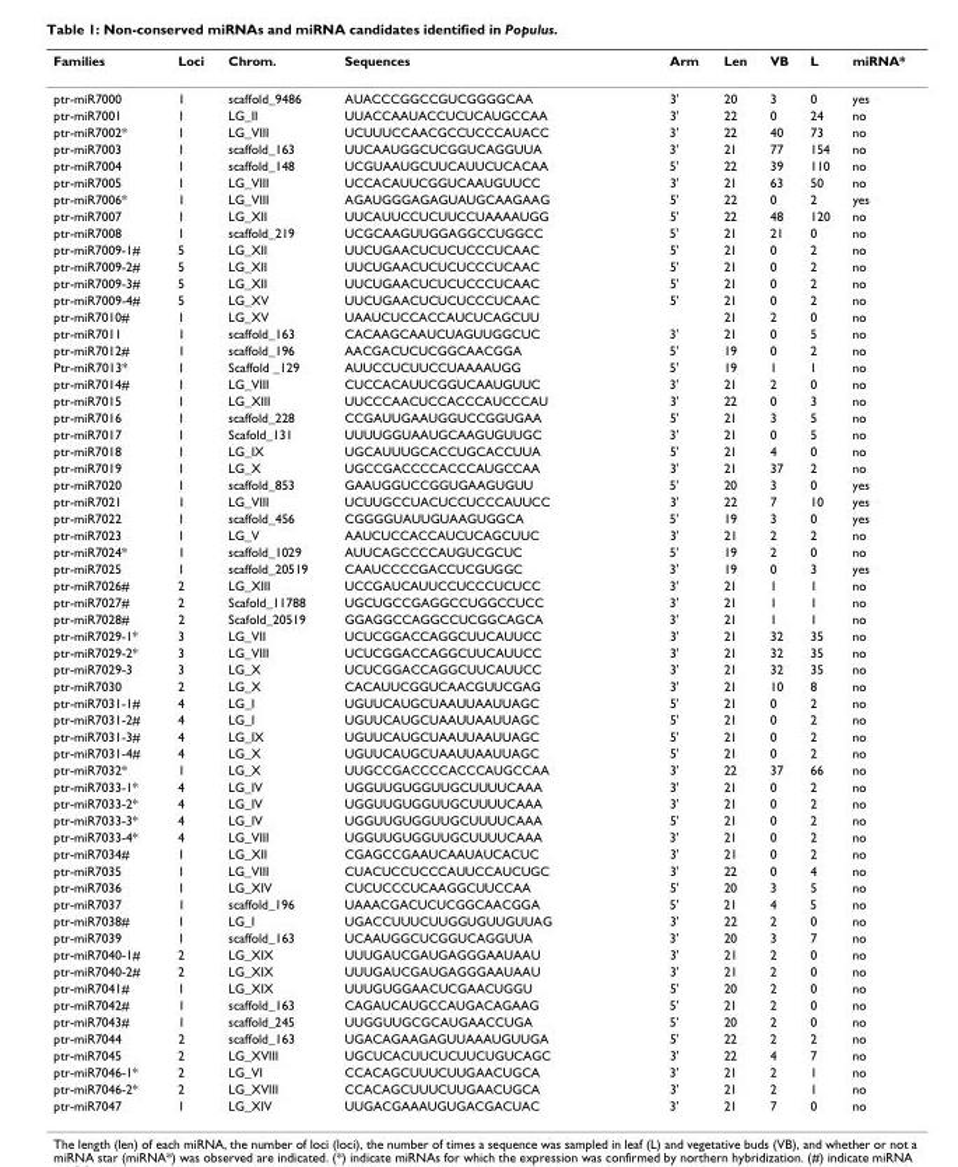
<table><thead><tr><td>Families</td><td>Loci</td><td>Chrom.</td><td>Sequences</td><td>Arm</td><td>Len</td><td>VB</td><td>L</td><td>miRNA*</td></tr></thead><tbody><tr><td>ptr-miR7000</td><td>1</td><td>scaffold_9486</td><td>AUACCCGGCCGUCGGGGCAA</td><td>3&#x27;</td><td>20</td><td>3</td><td>0</td><td>yes</td></tr><tr><td>ptr-miR7001</td><td>1</td><td>LG_II</td><td>UUACCAAUACCUCUCAUGCCAA</td><td>3&#x27;</td><td>22</td><td>0</td><td>24</td><td>no</td></tr><tr><td>ptr-miR7002*</td><td>1</td><td>LG_VIII</td><td>UCUUUCCAACGCCUCCCAUACC</td><td>3&#x27;</td><td>22</td><td>40</td><td>73</td><td>no</td></tr><tr><td>ptr-miR7003</td><td>1</td><td>scaffold_163</td><td>UUCAAUGGCUCGGUCAGGUUA</td><td>3&#x27;</td><td>21</td><td>77</td><td>154</td><td>no</td></tr><tr><td>ptr-miR7004</td><td>1</td><td>scaffold_148</td><td>UCGUAAUGCUUCAUUCUCACAA</td><td>5&#x27;</td><td>22</td><td>39</td><td>110</td><td>no</td></tr><tr><td>ptr-miR7005</td><td>1</td><td>LG_VIII</td><td>UCCACAUUCGGUCAAUGUUCC</td><td>3&#x27;</td><td>21</td><td>63</td><td>50</td><td>no</td></tr><tr><td>ptr-miR7006*</td><td>1</td><td>LG_VIII</td><td>AGAUGGGAGAGUAUGCAAGAAG</td><td>5&#x27;</td><td>22</td><td>0</td><td>2</td><td>yes</td></tr><tr><td>ptr-miR7007</td><td>1</td><td>LG_XII</td><td>UUCAUUCCUCUUCCUAAAAUGG</td><td>5&#x27;</td><td>22</td><td>48</td><td>120</td><td>no</td></tr><tr><td>ptr-miR7008</td><td>1</td><td>scaffold_219</td><td>UCGCAAGUUGGAGGCCUGGCC</td><td>5&#x27;</td><td>21</td><td>21</td><td>0</td><td>no</td></tr><tr><td>ptr-miR7009-1#</td><td>5</td><td>LG_XII</td><td>UUCUGAACUCUCUCCCUCAAC</td><td>5&#x27;</td><td>21</td><td>0</td><td>2</td><td>no</td></tr><tr><td>ptr-miR7009-2#</td><td>5</td><td>LG_XII</td><td>UUCUGAACUCUCUCCCUCAAC</td><td>5&#x27;</td><td>21</td><td>0</td><td>2</td><td>no</td></tr><tr><td>ptr-miR7009-3#</td><td>5</td><td>LG_XII</td><td>UUCUGAACUCUCUCCCUCAAC</td><td>5&#x27;</td><td>21</td><td>0</td><td>2</td><td>no</td></tr><tr><td>ptr-miR7009-4#</td><td>5</td><td>LG_XV</td><td>UUCUGAACUCUCUCCCUCAAC</td><td>5&#x27;</td><td>21</td><td>0</td><td>2</td><td>no</td></tr><tr><td>ptr-miR7010#</td><td>1</td><td>LG_XV</td><td>UAAUCUCCACCAUCUCAGCUU</td><td></td><td>21</td><td>2</td><td>0</td><td>no</td></tr><tr><td>ptr-miR7011</td><td>1</td><td>scaffold_163</td><td>CACAAGCAAUCUAGUUGGCUC</td><td>3&#x27;</td><td>21</td><td>0</td><td>5</td><td>no</td></tr><tr><td>ptr-miR7012#</td><td>1</td><td>scaffold_196</td><td>AACGACUCUCGGCAACGGA</td><td>5&#x27;</td><td>19</td><td>0</td><td>2</td><td>no</td></tr><tr><td>Ptr-miR7013*</td><td>1</td><td>Scaffold _129</td><td>AUUCCUCUUCCUAAAAUGG</td><td>5&#x27;</td><td>19</td><td>1</td><td>1</td><td>no</td></tr><tr><td>ptr-miR7014#</td><td>1</td><td>LG_VIII</td><td>CUCCACAUUCGGUCAAUGUUC</td><td>3&#x27;</td><td>21</td><td>2</td><td>0</td><td>no</td></tr><tr><td>ptr-miR7015</td><td>1</td><td>LG_XIII</td><td>UUCCCAACUCCACCCAUCCCAU</td><td>3&#x27;</td><td>22</td><td>0</td><td>3</td><td>no</td></tr><tr><td>ptr-miR7016</td><td>1</td><td>scaffold_228</td><td>CCGAUUGAAUGGUCCGGUGAA</td><td>5&#x27;</td><td>21</td><td>3</td><td>5</td><td>no</td></tr><tr><td>ptr-miR7017</td><td>1</td><td>Scafold_131</td><td>UUUUGGUAAUGCAAGUGUUGC</td><td>3&#x27;</td><td>21</td><td>0</td><td>5</td><td>no</td></tr><tr><td>ptr-miR7018</td><td>1</td><td>LG_IX</td><td>UGCAUUUGCACCUGCACCUUA</td><td>5&#x27;</td><td>21</td><td>4</td><td>0</td><td>no</td></tr><tr><td>ptr-miR7019</td><td>1</td><td>LG_X</td><td>UGCCGACCCCACCCAUGCCAA</td><td>3&#x27;</td><td>21</td><td>37</td><td>2</td><td>no</td></tr><tr><td>ptr-miR7020</td><td>1</td><td>scaffold_853</td><td>GAAUGGUCCGGUGAAGUGUU</td><td>5&#x27;</td><td>20</td><td>3</td><td>0</td><td>yes</td></tr><tr><td>ptr-miR7021</td><td>1</td><td>LG_VIII</td><td>UCUUGCCUACUCCUCCCAUUCC</td><td>3&#x27;</td><td>22</td><td>7</td><td>10</td><td>yes</td></tr><tr><td>ptr-miR7022</td><td>1</td><td>scaffold_456</td><td>CGGGGUAUUGUAAGUGGCA</td><td>5&#x27;</td><td>19</td><td>3</td><td>0</td><td>yes</td></tr><tr><td>ptr-miR7023</td><td>1</td><td>LG_V</td><td>AAUCUCCACCAUCUCAGCUUC</td><td>3&#x27;</td><td>21</td><td>2</td><td>2</td><td>no</td></tr><tr><td>ptr-miR7024*</td><td>1</td><td>scaffold_1029</td><td>AUUCAGCCCCAUGUCGCUC</td><td>5&#x27;</td><td>19</td><td>2</td><td>0</td><td>no</td></tr><tr><td>ptr-miR7025</td><td>1</td><td>scaffold_20519</td><td>CAAUCCCCGACCUCGUGGC</td><td>3&#x27;</td><td>19</td><td>0</td><td>3</td><td>yes</td></tr><tr><td>ptr-miR7026#</td><td>2</td><td>LG_XIII</td><td>UCCGAUCAUUCCUCCCUCUCC</td><td>3&#x27;</td><td>21</td><td>1</td><td>1</td><td>no</td></tr><tr><td>ptr-miR7027#</td><td>2</td><td>Scafold_11788</td><td>UGCUGCCGAGGCCUGGCCUCC</td><td>3&#x27;</td><td>21</td><td>1</td><td>1</td><td>no</td></tr><tr><td>ptr-miR7028#</td><td>2</td><td>Scafold_20519</td><td>GGAGGCCAGGCCUCGGCAGCA</td><td>3&#x27;</td><td>21</td><td>1</td><td>1</td><td>no</td></tr><tr><td>ptr-miR7029-1*</td><td>3</td><td>LG_VII</td><td>UCUCGGACCAGGCUUCAUUCC</td><td>3&#x27;</td><td>21</td><td>32</td><td>35</td><td>no</td></tr><tr><td>ptr-miR7029-2*</td><td>3</td><td>LG_VIII</td><td>UCUCGGACCAGGCUUCAUUCC</td><td>3&#x27;</td><td>21</td><td>32</td><td>35</td><td>no</td></tr><tr><td>ptr-miR7029-3</td><td>3</td><td>LG_X</td><td>UCUCGGACCAGGCUUCAUUCC</td><td>3&#x27;</td><td>21</td><td>32</td><td>35</td><td>no</td></tr><tr><td>ptr-miR7030</td><td>2</td><td>LG_X</td><td>CACAUUCGGUCAACGUUCGAG</td><td>3&#x27;</td><td>21</td><td>10</td><td>8</td><td>no</td></tr><tr><td>ptr-miR7031-1#</td><td>4</td><td>LG_I</td><td>UGUUCAUGCUAAUUAAUUAGC</td><td>5&#x27;</td><td>21</td><td>0</td><td>2</td><td>no</td></tr><tr><td>ptr-miR7031-2#</td><td>4</td><td>LG_I</td><td>UGUUCAUGCUAAUUAAUUAGC</td><td>5&#x27;</td><td>21</td><td>0</td><td>2</td><td>no</td></tr><tr><td>ptr-miR7031-3#</td><td>4</td><td>LG_IX</td><td>UGUUCAUGCUAAUUAAUUAGC</td><td>5&#x27;</td><td>21</td><td>0</td><td>2</td><td>no</td></tr><tr><td>ptr-miR7031-4#</td><td>4</td><td>LG_X</td><td>UGUUCAUGCUAAUUAAUUAGC</td><td>5&#x27;</td><td>21</td><td>0</td><td>2</td><td>no</td></tr><tr><td>ptr-miR7032*</td><td>1</td><td>LG_X</td><td>UUGCCGACCCCACCCAUGCCAA</td><td>3&#x27;</td><td>22</td><td>37</td><td>66</td><td>no</td></tr><tr><td>ptr-miR7033-1*</td><td>4</td><td>LG_IV</td><td>UGGUUGUGGUUGCUUUUCAAA</td><td>3&#x27;</td><td>21</td><td>0</td><td>2</td><td>no</td></tr><tr><td>ptr-miR7033-2*</td><td>4</td><td>LG_IV</td><td>UGGUUGUGGUUGCUUUUCAAA</td><td>3&#x27;</td><td>21</td><td>0</td><td>2</td><td>no</td></tr><tr><td>ptr-miR7033-3*</td><td>4</td><td>LG_IV</td><td>UGGUUGUGGUUGCUUUUCAAA</td><td>5&#x27;</td><td>21</td><td>0</td><td>2</td><td>no</td></tr><tr><td>ptr-miR7033-4*</td><td>4</td><td>LG_VIII</td><td>UGGUUGUGGUUGCUUUUCAAA</td><td>3&#x27;</td><td>21</td><td>0</td><td>2</td><td>no</td></tr><tr><td>ptr-miR7034#</td><td>1</td><td>LG_XII</td><td>CGAGCCGAAUCAAUAUCACUC</td><td>3&#x27;</td><td>21</td><td>0</td><td>2</td><td>no</td></tr><tr><td>ptr-miR7035</td><td>1</td><td>LG_VIII</td><td>CUACUCCUCCCAUUCCAUCUGC</td><td>3&#x27;</td><td>22</td><td>0</td><td>4</td><td>no</td></tr><tr><td>ptr-miR7036</td><td>1</td><td>LG_XIV</td><td>CUCUCCCUCAAGGCUUCCAA</td><td>5&#x27;</td><td>20</td><td>3</td><td>5</td><td>no</td></tr><tr><td>ptr-miR7037</td><td>1</td><td>scaffold_196</td><td>UAAACGACUCUCGGCAACGGA</td><td>5&#x27;</td><td>21</td><td>4</td><td>5</td><td>no</td></tr><tr><td>ptr-miR7038#</td><td>1</td><td>LG_I</td><td>UGACCUUUCUUGGUGUUGUUAG</td><td>3&#x27;</td><td>22</td><td>2</td><td>0</td><td>no</td></tr><tr><td>ptr-miR7039</td><td>1</td><td>scaffold_163</td><td>UCAAUGGCUCGGUCAGGUUA</td><td>3&#x27;</td><td>20</td><td>3</td><td>7</td><td>no</td></tr><tr><td>ptr-miR7040-1#</td><td>2</td><td>LG_XIX</td><td>UUUGAUCGAUGAGGGAAUAAU</td><td>3&#x27;</td><td>21</td><td>2</td><td>0</td><td>no</td></tr><tr><td>ptr-miR7040-2#</td><td>2</td><td>LG_XIX</td><td>UUUGAUCGAUGAGGGAAUAAU</td><td>3&#x27;</td><td>21</td><td>2</td><td>0</td><td>no</td></tr><tr><td>ptr-miR7041#</td><td>1</td><td>LG_XIX</td><td>UUUGUGGAACUCGAACUGGU</td><td>5&#x27;</td><td>20</td><td>2</td><td>0</td><td>no</td></tr><tr><td>ptr-miR7042#</td><td>1</td><td>scaffold_163</td><td>CAGAUCAUGCCAUGACAGAAG</td><td>5&#x27;</td><td>21</td><td>2</td><td>0</td><td>no</td></tr><tr><td>ptr-miR7043#</td><td>1</td><td>scaffold_245</td><td>UUGGUUGCGCAUGAACCUGA</td><td>5&#x27;</td><td>20</td><td>2</td><td>0</td><td>no</td></tr><tr><td>ptr-miR7044</td><td>2</td><td>scaffold_163</td><td>UGACAGAAGAGUUAAAUGUUGA</td><td>5&#x27;</td><td>22</td><td>2</td><td>2</td><td>no</td></tr><tr><td>ptr-miR7045</td><td>2</td><td>LG_XVIII</td><td>UGCUCACUUCUCUUCUGUCAGC</td><td>3&#x27;</td><td>22</td><td>4</td><td>7</td><td>no</td></tr><tr><td>ptr-miR7046-1*</td><td>2</td><td>LG_VI</td><td>CCACAGCUUUCUUGAACUGCA</td><td>3&#x27;</td><td>21</td><td>2</td><td>1</td><td>no</td></tr><tr><td>ptr-miR7046-2*</td><td>2</td><td>LG_XVIII</td><td>CCACAGCUUUCUUGAACUGCA</td><td>3&#x27;</td><td>21</td><td>2</td><td>1</td><td>no</td></tr><tr><td>ptr-miR7047</td><td>1</td><td>LG_XIV</td><td>UUGACGAAAUGUGACGACUAC</td><td>3&#x27;</td><td>21</td><td>7</td><td>0</td><td>no</td></tr></tbody></table>